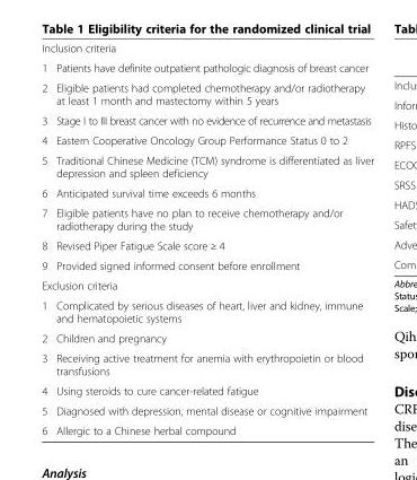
<table><tbody><tr><td colspan="2">Inclusion criteria</td></tr><tr><td>1</td><td>Patients have definite outpatient pathologic diagnosis of breast cancer</td></tr><tr><td>2</td><td>Eligible patients had completed chemotherapy and/or radiotherapy at least 1 month and mastectomy within 5 years</td></tr><tr><td>3</td><td>Stage I to III breast cancer with no evidence of recurrence and metastasis</td></tr><tr><td>4</td><td>Eastern Cooperative Oncology Group Performance Status 0 to 2</td></tr><tr><td>5</td><td>Traditional Chinese Medicine (TCM) syndrome is differentiated as liver depression and spleen deficiency</td></tr><tr><td>6</td><td>Anticipated survival time exceeds 6 months</td></tr><tr><td>7</td><td>Eligible patients have no plan to receive chemotherapy and/or radiotherapy during the study</td></tr><tr><td>8</td><td>Revised Piper Fatigue Scale score ≥ 4</td></tr><tr><td>9</td><td>Provided signed informed consent before enrollment</td></tr><tr><td colspan="2">Exclusion criteria</td></tr><tr><td>1</td><td>Complicated by serious diseases of heart, liver and kidney, immune and hematopoietic systems</td></tr><tr><td>2</td><td>Children and pregnancy</td></tr><tr><td>3</td><td>Receiving active treatment for anemia with erythropoietin or blood transfusions</td></tr><tr><td>4</td><td>Using steroids to cure cancer-related fatigue</td></tr><tr><td>5</td><td>Diagnosed with depression, mental disease or cognitive impairment</td></tr><tr><td>6</td><td>Allergic to a Chinese herbal compound</td></tr></tbody></table>